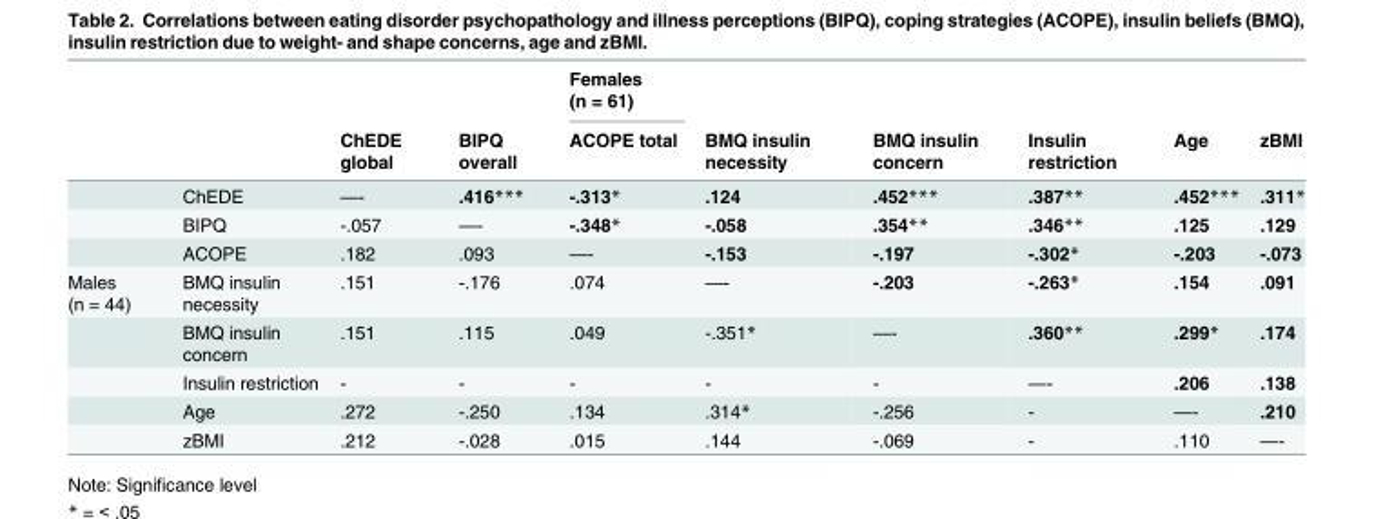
<table><thead><tr><td rowspan="2"></td><td rowspan="2"></td><td rowspan="2">ChEDE global</td><td rowspan="2">BIPQ overall</td><td rowspan="2">Females (n = 61) ACOPE total</td><td rowspan="2">BMQ insulin necessity</td><td rowspan="2">BMQ insulin concern</td><td rowspan="2">Insulin restriction</td><td rowspan="2">Age</td><td rowspan="2">zBMI</td></tr><tr></tr></thead><tbody><tr><td></td><td>ChEDE</td><td>—-</td><td>.416***</td><td>-.313*</td><td>.124</td><td>.452***</td><td>.387**</td><td>.452***</td><td>.311*</td></tr><tr><td></td><td>BIPQ</td><td>-.057</td><td>—-</td><td>-.348*</td><td>-.058</td><td>.354**</td><td>.346**</td><td>.125</td><td>.129</td></tr><tr><td></td><td>ACOPE</td><td>.182</td><td>.093</td><td>—-</td><td>-.153</td><td>-.197</td><td>-.302*</td><td>-.203</td><td>-.073</td></tr><tr><td rowspan="5">Males (n = 44)</td><td>BMQ insulin necessity</td><td>.151</td><td>-.176</td><td>.074</td><td>—-</td><td>-.203</td><td>-.263*</td><td>.154</td><td>.091</td></tr><tr><td>BMQ insulin concern</td><td>.151</td><td>.115</td><td>.049</td><td>-.351*</td><td>—-</td><td>.360**</td><td>.299*</td><td>.174</td></tr><tr><td>Insulin restriction</td><td>-</td><td>-</td><td>-</td><td>-</td><td>-</td><td>—-</td><td>.206</td><td>.138</td></tr><tr><td>Age</td><td>.272</td><td>-.250</td><td>.134</td><td>.314*</td><td>-.256</td><td>-</td><td>—-</td><td>.210</td></tr><tr><td>zBMI</td><td>.212</td><td>-.028</td><td>.015</td><td>.144</td><td>-.069</td><td>-</td><td>.110</td><td>—-</td></tr></tbody></table>